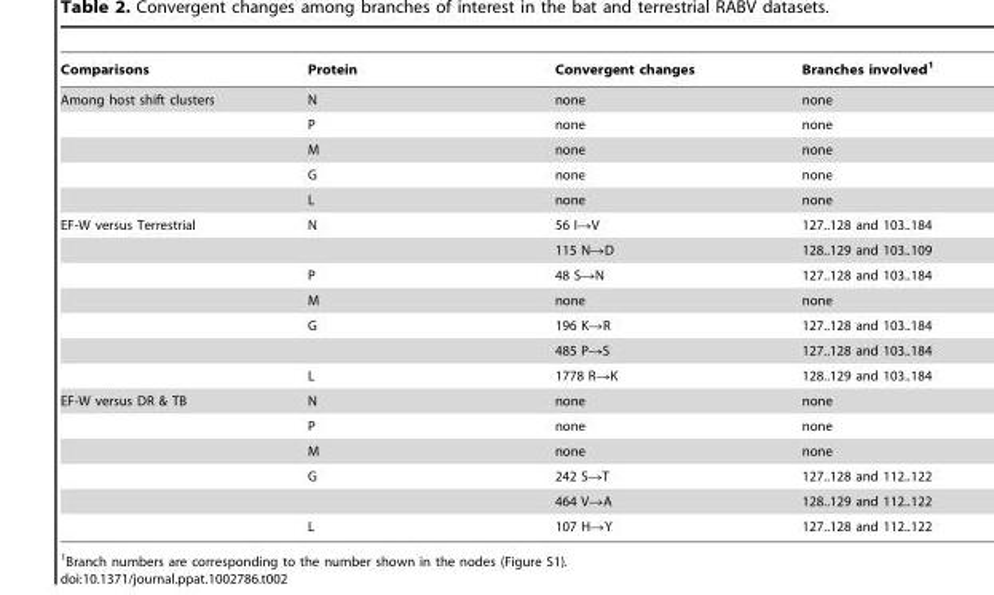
<table><thead><tr><td>Comparisons</td><td>Protein</td><td>Convergent changes</td><td>Branches involved<sup>1</sup></td></tr></thead><tbody><tr><td rowspan="5">Among host shift clusters</td><td>N</td><td>none</td><td>none</td></tr><tr><td>P</td><td>none</td><td>none</td></tr><tr><td>M</td><td>none</td><td>none</td></tr><tr><td>G</td><td>none</td><td>none</td></tr><tr><td>L</td><td>none</td><td>none</td></tr><tr><td rowspan="7">EF-W versus Terrestrial</td><td>N</td><td>56 I→V</td><td>127..128 and 103..184</td></tr><tr><td></td><td>115 N→D</td><td>128..129 and 103..109</td></tr><tr><td>P</td><td>48 S→N</td><td>127..128 and 103..184</td></tr><tr><td>M</td><td>none</td><td>none</td></tr><tr><td>G</td><td>196 K→R</td><td>127..128 and 103..184</td></tr><tr><td></td><td>485 P→S</td><td>127..128 and 103..184</td></tr><tr><td>L</td><td>1778 R→K</td><td>128..129 and 103..184</td></tr><tr><td rowspan="6">EF-W versus DR &amp; TB</td><td>N</td><td>none</td><td>none</td></tr><tr><td>P</td><td>none</td><td>none</td></tr><tr><td>M</td><td>none</td><td>none</td></tr><tr><td>G</td><td>242 S→T</td><td>127..128 and 112..122</td></tr><tr><td></td><td>464 V→A</td><td>128..129 and 112..122</td></tr><tr><td>L</td><td>107 H→Y</td><td>127..128 and 112..122</td></tr></tbody></table>